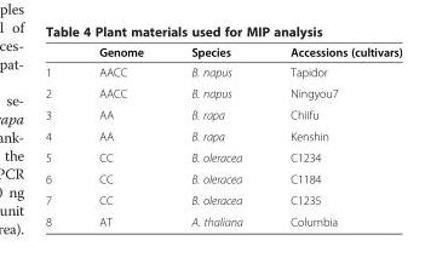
<table><thead><tr><td></td><td>Genome</td><td>Species</td><td>Accessions (cultivars)</td></tr></thead><tbody><tr><td>1</td><td>AACC</td><td>B. napus</td><td>Tapidor</td></tr><tr><td>2</td><td>AACC</td><td>B. napus</td><td>Ningyou7</td></tr><tr><td>3</td><td>AA</td><td>B. rapa</td><td>Chiifu</td></tr><tr><td>4</td><td>AA</td><td>B. rapa</td><td>Kenshin</td></tr><tr><td>5</td><td>CC</td><td>B. oleracea</td><td>C1234</td></tr><tr><td>6</td><td>CC</td><td>B. oleracea</td><td>C1184</td></tr><tr><td>7</td><td>CC</td><td>B. oleracea</td><td>C1235</td></tr><tr><td>8</td><td>AT</td><td>A. thaliana</td><td>Columbia</td></tr></tbody></table>